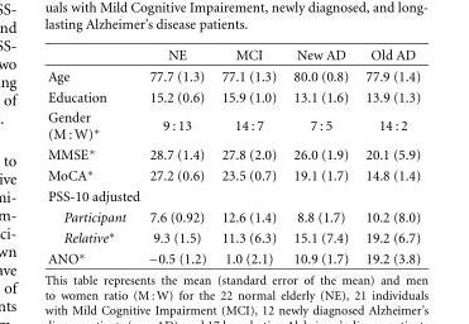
<table><thead><tr><td></td><td>NE</td><td>MCI</td><td>New AD</td><td>Old AD</td></tr></thead><tbody><tr><td>Age</td><td>77.7 (1.3)</td><td>77.1 (1.3)</td><td>80.0 (0.8)</td><td>77.9 (1.4)</td></tr><tr><td>Education</td><td>15.2 (0.6)</td><td>15.9 (1.0)</td><td>13.1 (1.6)</td><td>13.9 (1.3)</td></tr><tr><td>Gender (M : W)∗</td><td>9 : 13</td><td>14 : 7</td><td>7 : 5</td><td>14 : 2</td></tr><tr><td>MMSE∗</td><td>28.7 (1.4)</td><td>27.8 (2.0)</td><td>26.0 (1.9)</td><td>20.1 (5.9)</td></tr><tr><td>MoCA∗</td><td>27.2 (0.6)</td><td>23.5 (0.7)</td><td>19.1 (1.7)</td><td>14.8 (1.4)</td></tr><tr><td colspan="5">PSS-10 adjusted</td></tr><tr><td>Participant</td><td>7.6 (0.92)</td><td>12.6 (1.4)</td><td>8.8 (1.7)</td><td>10.2 (8.0)</td></tr><tr><td>Relative∗</td><td>9.3 (1.5)</td><td>11.3 (6.3)</td><td>15.1 (7.4)</td><td>19.2 (6.7)</td></tr><tr><td>ANO∗</td><td>−0.5 (1.2)</td><td>1.0 (2.1)</td><td>10.9 (1.7)</td><td>19.2 (3.8)</td></tr></tbody></table>